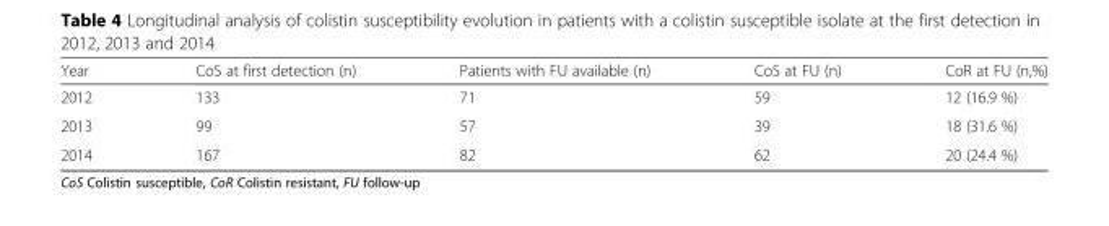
<table><thead><tr><td>Year</td><td>CoS at first detection (n)</td><td>Patients with FU available (n)</td><td>CoS at FU (n)</td><td>CoR at FU (n,%)</td></tr></thead><tbody><tr><td>2012</td><td>133</td><td>71</td><td>59</td><td>12 (16.9 %)</td></tr><tr><td>2013</td><td>99</td><td>57</td><td>39</td><td>18 (31.6 %)</td></tr><tr><td>2014</td><td>167</td><td>82</td><td>62</td><td>20 (24.4 %)</td></tr></tbody></table>